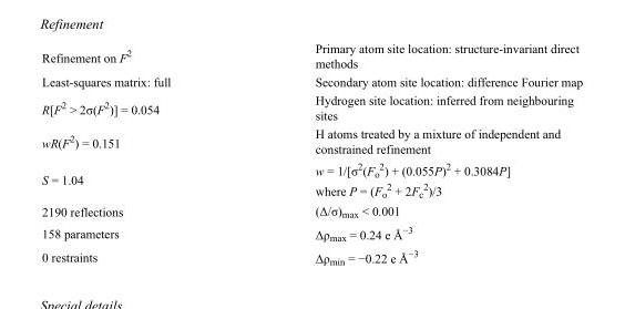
<table><tbody><tr><td>Refinement on F<sup>2</sup></td><td>Primary atom site location: structure-invariant direct methods</td></tr><tr><td>Least-squares matrix: full</td><td>Secondary atom site location: difference Fourier map</td></tr><tr><td>R[F<sup>2</sup> &gt; 2σ(F<sup>2</sup>)] = 0.054</td><td>Hydrogen site location: inferred from neighbouring sites</td></tr><tr><td>wR(F<sup>2</sup>) = 0.151</td><td>H atoms treated by a mixture of independent and constrained refinement</td></tr><tr><td>S = 1.04</td><td>w = 1/[σ<sup>2</sup>(F<sub>o</sub> <sup>2</sup>) + (0.055P)<sup>2</sup> + 0.3084P] where P = (F<sub>o</sub> <sup>2</sup> + 2F<sub>c</sub> <sup>2</sup>)/3</td></tr><tr><td>2190 reflections</td><td>(Δ/σ)<sub>max</sub> &lt; 0.001</td></tr><tr><td>158 parameters</td><td>Δρ<sub>max</sub> = 0.24 e Å<sup>−3</sup></td></tr><tr><td>0 restraints</td><td>Δρ<sub>min</sub> = −0.22 e Å<sup>−3</sup></td></tr></tbody></table>